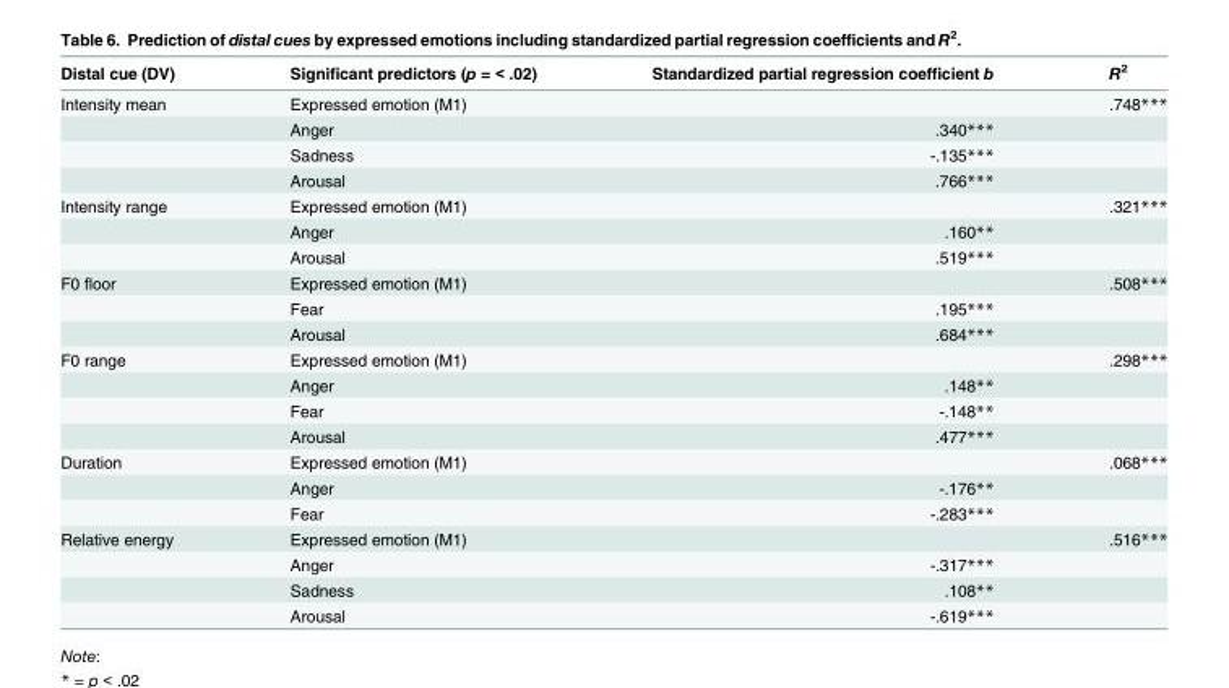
<table><thead><tr><td>Distal cue (DV)</td><td>Significant predictors (p = &lt; .02)</td><td>Standardized partial regression coefficient b</td><td>R<sup>2</sup></td></tr></thead><tbody><tr><td rowspan="4">Intensity mean</td><td>Expressed emotion (M1)</td><td></td><td>.748***</td></tr><tr><td>Anger</td><td>.340***</td><td></td></tr><tr><td>Sadness</td><td>-.135***</td><td></td></tr><tr><td>Arousal</td><td>.766***</td><td></td></tr><tr><td rowspan="3">Intensity range</td><td>Expressed emotion (M1)</td><td></td><td>.321***</td></tr><tr><td>Anger</td><td>.160**</td><td></td></tr><tr><td>Arousal</td><td>.519***</td><td></td></tr><tr><td rowspan="3">F0 floor</td><td>Expressed emotion (M1)</td><td></td><td>.508***</td></tr><tr><td>Fear</td><td>.195***</td><td></td></tr><tr><td>Arousal</td><td>.684***</td><td></td></tr><tr><td rowspan="4">F0 range</td><td>Expressed emotion (M1)</td><td></td><td>.298***</td></tr><tr><td>Anger</td><td>.148**</td><td></td></tr><tr><td>Fear</td><td>-.148**</td><td></td></tr><tr><td>Arousal</td><td>.477***</td><td></td></tr><tr><td rowspan="3">Duration</td><td>Expressed emotion (M1)</td><td></td><td>.068***</td></tr><tr><td>Anger</td><td>-.176**</td><td></td></tr><tr><td>Fear</td><td>-.283***</td><td></td></tr><tr><td rowspan="4">Relative energy</td><td>Expressed emotion (M1)</td><td></td><td>.516***</td></tr><tr><td>Anger</td><td>-.317***</td><td></td></tr><tr><td>Sadness</td><td>.108**</td><td></td></tr><tr><td>Arousal</td><td>-.619***</td><td></td></tr></tbody></table>